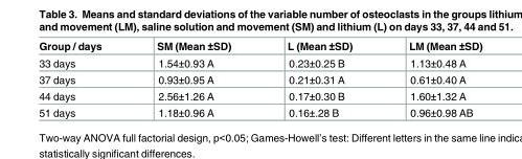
<table><thead><tr><td>Group / days</td><td>SM (Mean ±SD)</td><td>L (Mean ±SD)</td><td>LM (Mean ±SD)</td></tr></thead><tbody><tr><td>33 days</td><td>1.54±0.93 A</td><td>0.23±0.25 B</td><td>1.13±0.48 A</td></tr><tr><td>37 days</td><td>0.93±0.95 A</td><td>0.21±0.31 A</td><td>0.61±0.40 A</td></tr><tr><td>44 days</td><td>2.56±1.26 A</td><td>0.17±0.30 B</td><td>1.60±1.32 A</td></tr><tr><td>51 days</td><td>1.18±0.96 A</td><td>0.16±.28 B</td><td>0.96±0.98 AB</td></tr></tbody></table>